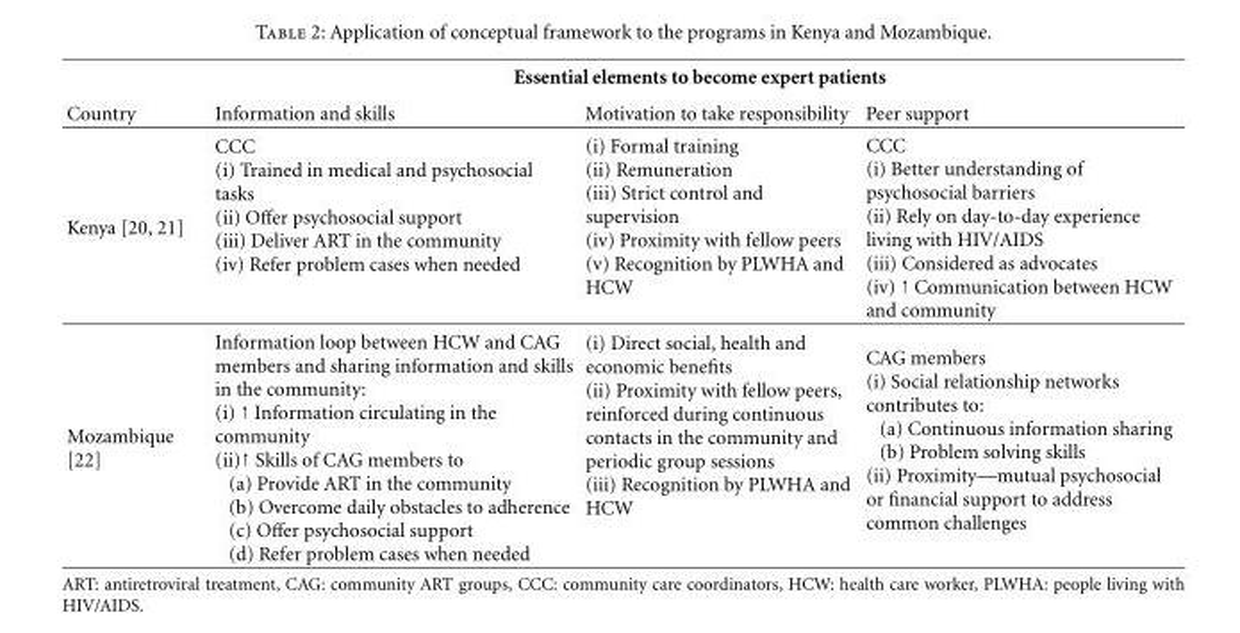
<table><thead><tr><td rowspan="2">Country</td><td colspan="3">Essential elements to become expert patients</td></tr><tr><td>Information and skills</td><td>Motivation to take responsibility</td><td>Peer support</td></tr></thead><tbody><tr><td>Kenya [20, 21]</td><td>CCC (i) Trained in medical and psychosocial tasks (ii) Offer psychosocial support (iii) Deliver ART in the community (iv) Refer problem cases when needed</td><td>(i) Formal training (ii) Remuneration (iii) Strict control and supervision (iv) Proximity with fellow peers (v) Recognition by PLWHA and HCW</td><td>CCC (i) Better understanding of psychosocial barriers (ii) Rely on day-to-day experience living with HIV/AIDS (iii) Considered as advocates (iv) ↑ Communication between HCW and community</td></tr><tr><td>Mozambique [22]</td><td>Information loop between HCW and CAG members and sharing information and skills in the community: (i) ↑ Information circulating in the community (ii)↑ Skills of CAG members to (a) Provide ART in the community (b) Overcome daily obstacles to adherence (c) Offer psychosocial support (d) Refer problem cases when needed</td><td>(i) Direct social, health and economic benefits (ii) Proximity with fellow peers, reinforced during continuous contacts in the community and periodic group sessions (iii) Recognition by PLWHA and HCW</td><td>CAG members (i) Social relationship networks contributes to: (a) Continuous information sharing (b) Problem solving skills (ii) Proximity—mutual psychosocial or financial support to address common challenges</td></tr></tbody></table>